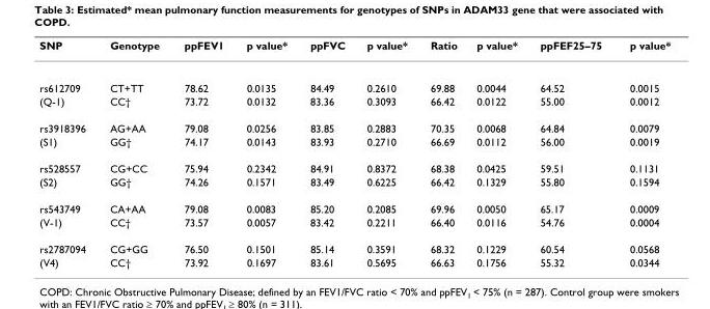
<table><thead><tr><td>SNP</td><td>Genotype</td><td>ppFEV1</td><td>p value*</td><td>ppFVC</td><td>p value*</td><td>Ratio</td><td>p value*</td><td>ppFEF25–75</td><td>p value*</td></tr></thead><tbody><tr><td>rs612709</td><td>CT+TT</td><td>78.62</td><td>0.0135</td><td>84.49</td><td>0.2610</td><td>69.88</td><td>0.0044</td><td>64.52</td><td>0.0015</td></tr><tr><td>(Q-1)</td><td>CC†</td><td>73.72</td><td>0.0132</td><td>83.36</td><td>0.3093</td><td>66.42</td><td>0.0122</td><td>55.00</td><td>0.0012</td></tr><tr><td>rs3918396</td><td>AG+AA</td><td>79.08</td><td>0.0256</td><td>83.85</td><td>0.2883</td><td>70.35</td><td>0.0068</td><td>64.84</td><td>0.0079</td></tr><tr><td>(S1)</td><td>GG†</td><td>74.17</td><td>0.0143</td><td>83.93</td><td>0.2710</td><td>66.69</td><td>0.0112</td><td>56.00</td><td>0.0019</td></tr><tr><td>rs528557</td><td>CG+CC</td><td>75.94</td><td>0.2342</td><td>84.91</td><td>0.8372</td><td>68.38</td><td>0.0425</td><td>59.51</td><td>0.1131</td></tr><tr><td>(S2)</td><td>GG†</td><td>74.26</td><td>0.1571</td><td>83.49</td><td>0.6225</td><td>66.42</td><td>0.1329</td><td>55.80</td><td>0.1594</td></tr><tr><td>rs543749</td><td>CA+AA</td><td>79.08</td><td>0.0083</td><td>85.20</td><td>0.2085</td><td>69.96</td><td>0.0050</td><td>65.17</td><td>0.0009</td></tr><tr><td>(V-1)</td><td>CC†</td><td>73.57</td><td>0.0057</td><td>83.42</td><td>0.2211</td><td>66.40</td><td>0.0116</td><td>54.76</td><td>0.0004</td></tr><tr><td>rs2787094</td><td>CG+GG</td><td>76.50</td><td>0.1501</td><td>85.14</td><td>0.3591</td><td>68.32</td><td>0.1229</td><td>60.54</td><td>0.0568</td></tr><tr><td>(V4)</td><td>CC†</td><td>73.92</td><td>0.1697</td><td>83.61</td><td>0.5695</td><td>66.63</td><td>0.1756</td><td>55.32</td><td>0.0344</td></tr></tbody></table>